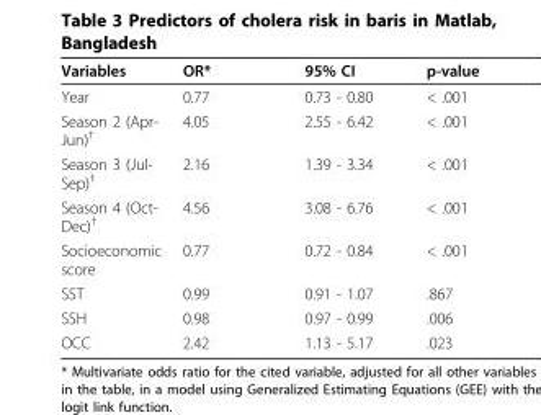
<table><thead><tr><td>Variables</td><td>OR*</td><td>95% CI</td><td>p-value</td></tr></thead><tbody><tr><td>Year</td><td>0.77</td><td>0.73 - 0.80</td><td>&lt; .001</td></tr><tr><td>Season 2 (Apr- Jun)<sup>†</sup></td><td>4.05</td><td>2.55 - 6.42</td><td>&lt; .001</td></tr><tr><td>Season 3 (Jul- Sep)<sup>†</sup></td><td>2.16</td><td>1.39 - 3.34</td><td>&lt; .001</td></tr><tr><td>Season 4 (Oct- Dec)<sup>†</sup></td><td>4.56</td><td>3.08 - 6.76</td><td>&lt; .001</td></tr><tr><td>Socioeconomic score</td><td>0.77</td><td>0.72 - 0.84</td><td>&lt; .001</td></tr><tr><td>SST</td><td>0.99</td><td>0.91 - 1.07</td><td>.867</td></tr><tr><td>SSH</td><td>0.98</td><td>0.97 - 0.99</td><td>.006</td></tr><tr><td>OCC</td><td>2.42</td><td>1.13 - 5.17</td><td>.023</td></tr></tbody></table>